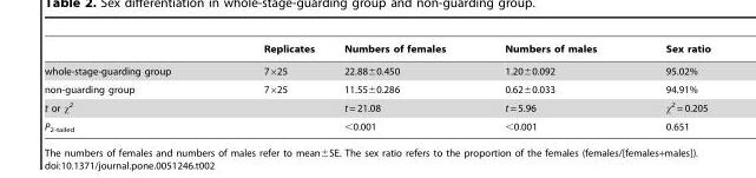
<table><thead><tr><td></td><td>Replicates</td><td>Numbers of females</td><td>Numbers of males</td><td>Sex ratio</td></tr></thead><tbody><tr><td>whole-stage-guarding group</td><td>7×25</td><td>22.88±0.450</td><td>1.20±0.092</td><td>95.02%</td></tr><tr><td>non-guarding group</td><td>7×25</td><td>11.55±0.286</td><td>0.62±0.033</td><td>94.91%</td></tr><tr><td>t or χ<sup>2</sup></td><td></td><td>t = 21.08</td><td>t = 5.96</td><td>χ<sup>2</sup> = 0.205</td></tr><tr><td>P<sub>2-tailed</sub></td><td></td><td>&lt;0.001</td><td>&lt;0.001</td><td>0.651</td></tr></tbody></table>